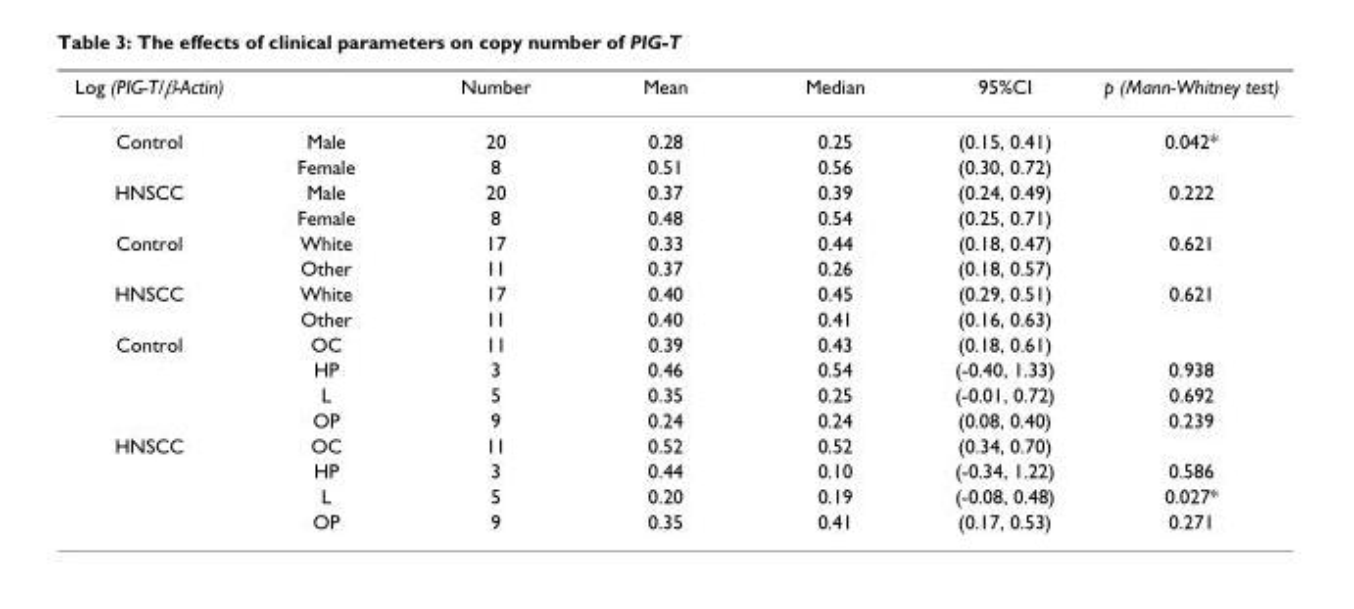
<table><thead><tr><td>Log (PIG-T/β-Actin)</td><td></td><td>Number</td><td>Mean</td><td>Median</td><td>95%CI</td><td>p (Mann-Whitney test)</td></tr></thead><tbody><tr><td rowspan="2">Control</td><td>Male</td><td>20</td><td>0.28</td><td>0.25</td><td>(0.15, 0.41)</td><td>0.042*</td></tr><tr><td>Female</td><td>8</td><td>0.51</td><td>0.56</td><td>(0.30, 0.72)</td><td></td></tr><tr><td rowspan="2">HNSCC</td><td>Male</td><td>20</td><td>0.37</td><td>0.39</td><td>(0.24, 0.49)</td><td>0.222</td></tr><tr><td>Female</td><td>8</td><td>0.48</td><td>0.54</td><td>(0.25, 0.71)</td><td></td></tr><tr><td rowspan="2">Control</td><td>White</td><td>17</td><td>0.33</td><td>0.44</td><td>(0.18, 0.47)</td><td>0.621</td></tr><tr><td>Other</td><td>11</td><td>0.37</td><td>0.26</td><td>(0.18, 0.57)</td><td></td></tr><tr><td rowspan="2">HNSCC</td><td>White</td><td>17</td><td>0.40</td><td>0.45</td><td>(0.29, 0.51)</td><td>0.621</td></tr><tr><td>Other</td><td>11</td><td>0.40</td><td>0.41</td><td>(0.16, 0.63)</td><td></td></tr><tr><td rowspan="4">Control</td><td>OC</td><td>11</td><td>0.39</td><td>0.43</td><td>(0.18, 0.61)</td><td></td></tr><tr><td>HP</td><td>3</td><td>0.46</td><td>0.54</td><td>(-0.40, 1.33)</td><td>0.938</td></tr><tr><td>L</td><td>5</td><td>0.35</td><td>0.25</td><td>(-0.01, 0.72)</td><td>0.692</td></tr><tr><td>OP</td><td>9</td><td>0.24</td><td>0.24</td><td>(0.08, 0.40)</td><td>0.239</td></tr><tr><td rowspan="4">HNSCC</td><td>OC</td><td>11</td><td>0.52</td><td>0.52</td><td>(0.34, 0.70)</td><td></td></tr><tr><td>HP</td><td>3</td><td>0.44</td><td>0.10</td><td>(-0.34, 1.22)</td><td>0.586</td></tr><tr><td>L</td><td>5</td><td>0.20</td><td>0.19</td><td>(-0.08, 0.48)</td><td>0.027*</td></tr><tr><td>OP</td><td>9</td><td>0.35</td><td>0.41</td><td>(0.17, 0.53)</td><td>0.271</td></tr></tbody></table>